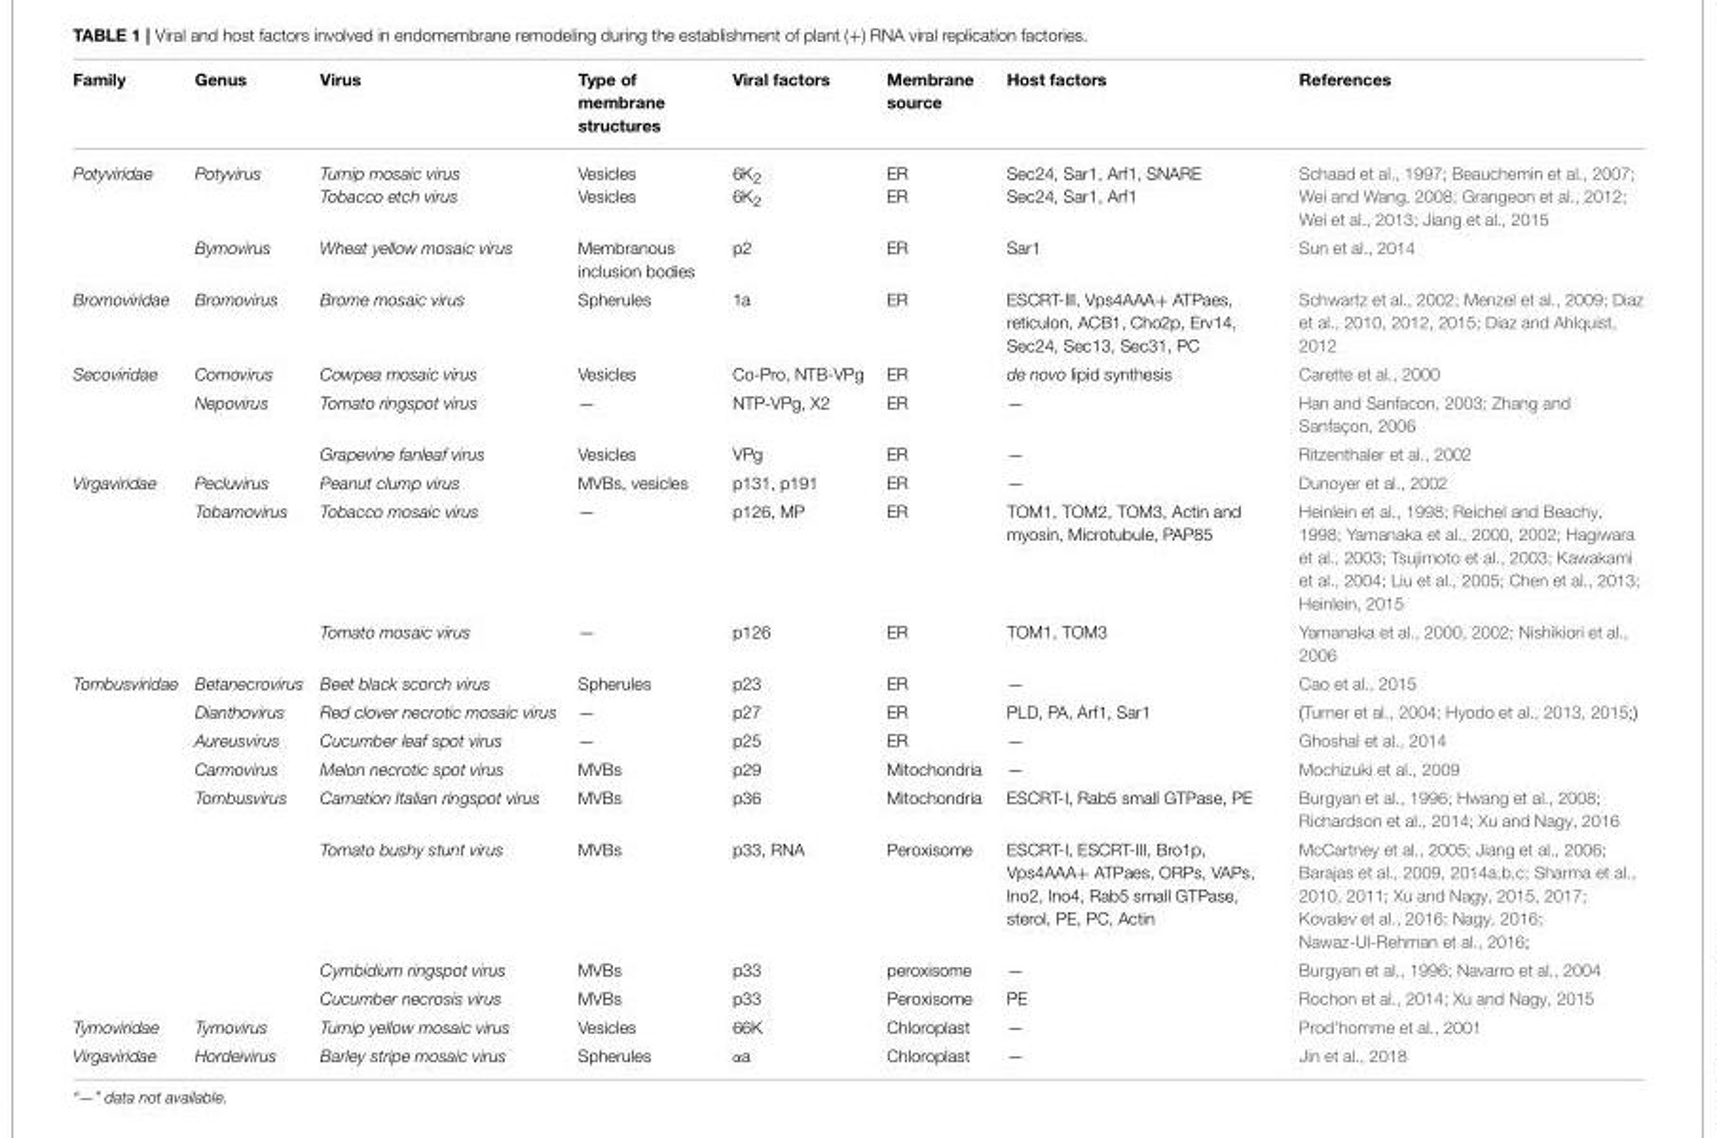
<table><thead><tr><td>Family</td><td>Genus</td><td>Virus</td><td>Type of membrane structures</td><td>Viral factors</td><td>Membrane source</td><td>Host factors</td><td>References</td></tr></thead><tbody><tr><td rowspan="2">Potyviridae</td><td>Potyvirus</td><td>Turnip mosaic virus Tobacco etch virus</td><td>Vesicles Vesicles</td><td>6K<sub>2</sub> 6K<sub>2</sub></td><td>ER ER</td><td>Sec24, Sar1, Arf1, SNARE Sec24, Sar1, Arf1</td><td>Schaad et al., 1997; Beauchemin et al., 2007; Wei and Wang, 2008; Grangeon et al., 2012; Wei et al., 2013; Jiang et al., 2015</td></tr><tr><td>Bymovirus</td><td>Wheat yellow mosaic virus</td><td>Membranous inclusion bodies</td><td>p2</td><td>ER</td><td>Sar1</td><td>Sun et al., 2014</td></tr><tr><td>Bromoviridae</td><td>Bromovirus</td><td>Brome mosaic virus</td><td>Spherules</td><td>1a</td><td>ER</td><td>ESCRT-III, Vps4AAA+ ATPaes, reticulon, ACB1, Cho2p, Erv14, Sec24, Sec13, Sec31, PC</td><td>Schwartz et al., 2002; Menzel et al., 2009; Diaz et al., 2010, 2012, 2015; Diaz and Ahlquist, 2012</td></tr><tr><td rowspan="3">Secoviridae</td><td>Comovirus</td><td>Cowpea mosaic virus</td><td>Vesicles</td><td>Co-Pro, NTB-VPg</td><td>ER</td><td>de novo lipid synthesis</td><td>Carette et al., 2000</td></tr><tr><td>Nepovirus</td><td>Tomato ringspot virus</td><td>—</td><td>NTP-VPg, X2</td><td>ER</td><td>—</td><td>Han and Sanfacon, 2003; Zhang and Sanfaçon, 2006</td></tr><tr><td></td><td>Grapevine fanleaf virus</td><td>Vesicles</td><td>VPg</td><td>ER</td><td>—</td><td>Ritzenthaler et al., 2002</td></tr><tr><td rowspan="3">Virgaviridae</td><td>Pecluvirus</td><td>Peanut clump virus</td><td>MVBs, vesicles</td><td>p131, p191</td><td>ER</td><td>—</td><td>Dunoyer et al., 2002</td></tr><tr><td>Tobamovirus</td><td>Tobacco mosaic virus</td><td>—</td><td>p126, MP</td><td>ER</td><td>TOM1, TOM2, TOM3, Actin and myosin, Microtubule, PAP85</td><td>Heinlein et al., 1998; Reichel and Beachy, 1998; Yamanaka et al., 2000, 2002; Hagiwara et al., 2003; Tsujimoto et al., 2003; Kawakami et al., 2004; Liu et al., 2005; Chen et al., 2013; Heinlein, 2015</td></tr><tr><td></td><td>Tomato mosaic virus</td><td>—</td><td>p126</td><td>ER</td><td>TOM1, TOM3</td><td>Yamanaka et al., 2000, 2002; Nishikiori et al., 2006</td></tr><tr><td rowspan="8">Tombusviridae</td><td>Betanecrovirus</td><td>Beet black scorch virus</td><td>Spherules</td><td>p23</td><td>ER</td><td>—</td><td>Cao et al., 2015</td></tr><tr><td>Dianthovirus</td><td>Red clover necrotic mosaic virus</td><td>—</td><td>p27</td><td>ER</td><td>PLD, PA, Arf1, Sar1</td><td>(Turner et al., 2004; Hyodo et al., 2013, 2015;)</td></tr><tr><td>Aureusvirus</td><td>Cucumber leaf spot virus</td><td>—</td><td>p25</td><td>ER</td><td>—</td><td>Ghoshal et al., 2014</td></tr><tr><td>Carmovirus</td><td>Melon necrotic spot virus</td><td>MVBs</td><td>p29</td><td>Mitochondria</td><td>—</td><td>Mochizuki et al., 2009</td></tr><tr><td>Tombusvirus</td><td>Carnation Italian ringspot virus</td><td>MVBs</td><td>p36</td><td>Mitochondria</td><td>ESCRT-I, Rab5 small GTPase, PE</td><td>Burgyan et al., 1996; Hwang et al., 2008; Richardson et al., 2014; Xu and Nagy, 2016</td></tr><tr><td></td><td>Tomato bushy stunt virus</td><td>MVBs</td><td>p33, RNA</td><td>Peroxisome</td><td>ESCRT-I, ESCRT-III, Bro1p, Vps4AAA+ ATPaes, ORPs, VAPs, Ino2, Ino4, Rab5 small GTPase, sterol, PE, PC, Actin</td><td>McCartney et al., 2005; Jiang et al., 2006; Barajas et al., 2009, 2014a,b,c; Sharma et al., 2010, 2011; Xu and Nagy, 2015, 2017; Kovalev et al., 2016; Nagy, 2016; Nawaz-Ul-Rehman et al., 2016;</td></tr><tr><td></td><td>Cymbidium ringspot virus</td><td>MVBs</td><td>p33</td><td>peroxisome</td><td>—</td><td>Burgyan et al., 1996; Navarro et al., 2004</td></tr><tr><td></td><td>Cucumber necrosis virus</td><td>MVBs</td><td>p33</td><td>Peroxisome</td><td>PE</td><td>Rochon et al., 2014; Xu and Nagy, 2015</td></tr><tr><td>Tymoviridae</td><td>Tymovirus</td><td>Turnip yellow mosaic virus</td><td>Vesicles</td><td>66K</td><td>Chloroplast</td><td>—</td><td>Prod’homme et al., 2001</td></tr><tr><td>Virgaviridae</td><td>Hordeivirus</td><td>Barley stripe mosaic virus</td><td>Spherules</td><td>αa</td><td>Chloroplast</td><td>—</td><td>Jin et al., 2018</td></tr></tbody></table>